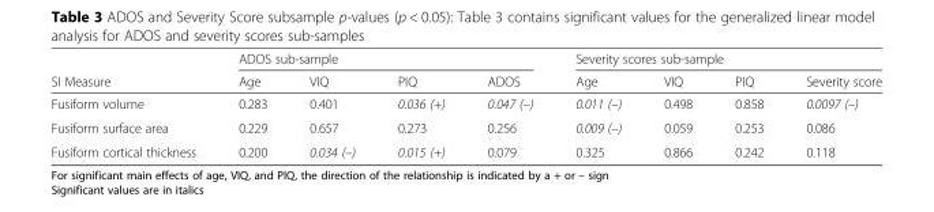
<table><thead><tr><td rowspan="2">SI Measure</td><td colspan="4">ADOS sub-sample</td><td colspan="4">Severity scores sub-sample</td></tr><tr><td>Age</td><td>VIQ</td><td>PIQ</td><td>ADOS</td><td>Age</td><td>VIQ</td><td>PIQ</td><td>Severity score</td></tr></thead><tbody><tr><td>Fusiform volume</td><td>0.283</td><td>0.401</td><td>0.036 (+)</td><td>0.047 (–)</td><td>0.011 (–)</td><td>0.498</td><td>0.858</td><td>0.0097 (–)</td></tr><tr><td>Fusiform surface area</td><td>0.229</td><td>0.657</td><td>0.273</td><td>0.256</td><td>0.009 (–)</td><td>0.059</td><td>0.253</td><td>0.086</td></tr><tr><td>Fusiform cortical thickness</td><td>0.200</td><td>0.034 (–)</td><td>0.015 (+)</td><td>0.079</td><td>0.325</td><td>0.866</td><td>0.242</td><td>0.118</td></tr></tbody></table>